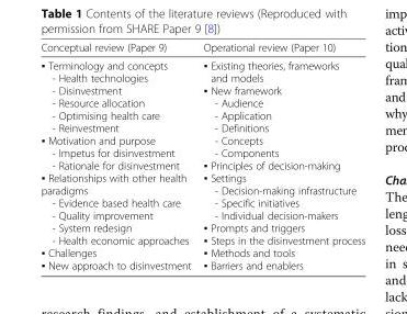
<table><thead><tr><td>Conceptual review (Paper 9)</td><td>Operational review (Paper 10)</td></tr></thead><tbody><tr><td>▪ Terminology and concepts - Health technologies - Disinvestment - Resource allocation - Optimising health care - Reinvestment ▪ Motivation and purpose - Impetus for disinvestment - Rationale for disinvestment ▪ Relationships with other health paradigms - Evidence based health care - Quality improvement - System redesign - Health economic approaches ▪ Challenges ▪ New approach to disinvestment</td><td>▪ Existing theories, frameworks and models ▪ New framework - Audience - Application - Definitions - Concepts - Components ▪ Principles of decision-making ▪ Settings - Decision-making infrastructure - Specific initiatives - Individual decision-makers ▪ Prompts and triggers ▪ Steps in the disinvestment process ▪ Methods and tools ▪ Barriers and enablers</td></tr></tbody></table>